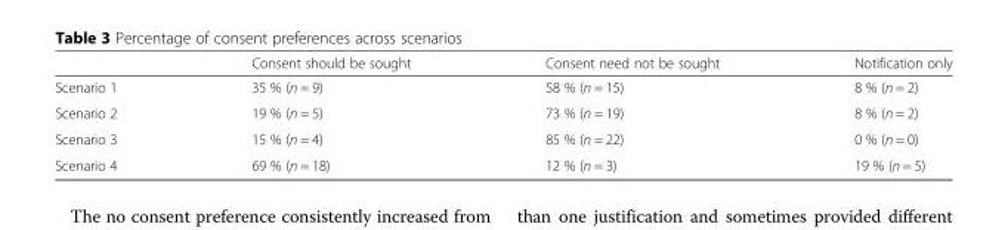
<table><thead><tr><td></td><td>Consent should be sought</td><td>Consent need not be sought</td><td>Notification only</td></tr></thead><tbody><tr><td>Scenario 1</td><td>35 % (n = 9)</td><td>58 % (n = 15)</td><td>8 % (n = 2)</td></tr><tr><td>Scenario 2</td><td>19 % (n = 5)</td><td>73 % (n = 19)</td><td>8 % (n = 2)</td></tr><tr><td>Scenario 3</td><td>15 % (n = 4)</td><td>85 % (n = 22)</td><td>0 % (n = 0)</td></tr><tr><td>Scenario 4</td><td>69 % (n = 18)</td><td>12 % (n = 3)</td><td>19 % (n = 5)</td></tr></tbody></table>